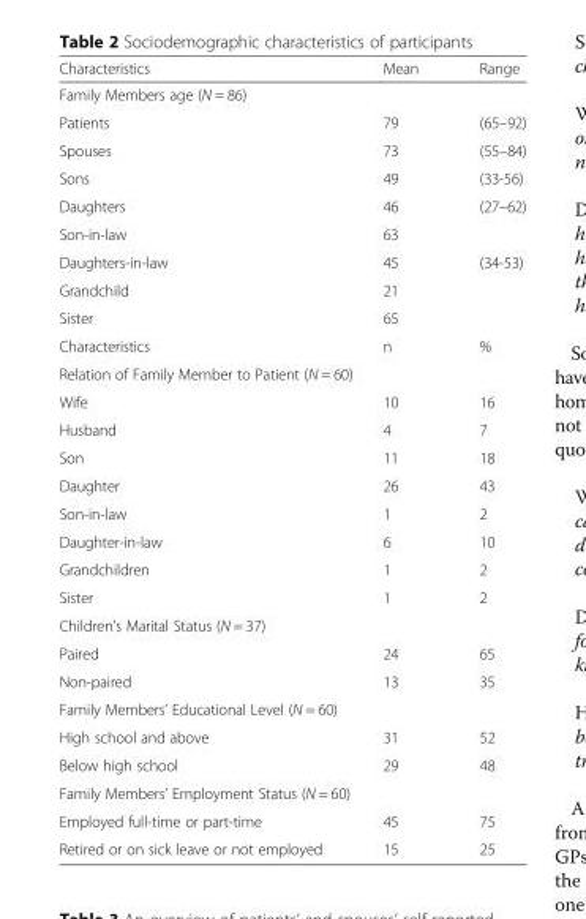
<table><thead><tr><td>Characteristics</td><td>Mean</td><td>Range</td></tr></thead><tbody><tr><td colspan="3">Family Members age (N = 86)</td></tr><tr><td>Patients</td><td>79</td><td>(65–92)</td></tr><tr><td>Spouses</td><td>73</td><td>(55–84)</td></tr><tr><td>Sons</td><td>49</td><td>(33-56)</td></tr><tr><td>Daughters</td><td>46</td><td>(27–62)</td></tr><tr><td>Son-in-law</td><td>63</td><td></td></tr><tr><td>Daughters-in-law</td><td>45</td><td>(34-53)</td></tr><tr><td>Grandchild</td><td>21</td><td></td></tr><tr><td>Sister</td><td>65</td><td></td></tr><tr><td>Characteristics</td><td>n</td><td>%</td></tr><tr><td colspan="3">Relation of Family Member to Patient (N = 60)</td></tr><tr><td>Wife</td><td>10</td><td>16</td></tr><tr><td>Husband</td><td>4</td><td>7</td></tr><tr><td>Son</td><td>11</td><td>18</td></tr><tr><td>Daughter</td><td>26</td><td>43</td></tr><tr><td>Son-in-law</td><td>1</td><td>2</td></tr><tr><td>Daughter-in-law</td><td>6</td><td>10</td></tr><tr><td>Grandchildren</td><td>1</td><td>2</td></tr><tr><td>Sister</td><td>1</td><td>2</td></tr><tr><td colspan="3">Children’s Marital Status (N = 37)</td></tr><tr><td>Paired</td><td>24</td><td>65</td></tr><tr><td>Non-paired</td><td>13</td><td>35</td></tr><tr><td colspan="3">Family Members’ Educational Level (N = 60)</td></tr><tr><td>High school and above</td><td>31</td><td>52</td></tr><tr><td>Below high school</td><td>29</td><td>48</td></tr><tr><td colspan="3">Family Members’ Employment Status (N = 60)</td></tr><tr><td>Employed full-time or part-time</td><td>45</td><td>75</td></tr><tr><td>Retired or on sick leave or not employed</td><td>15</td><td>25</td></tr></tbody></table>